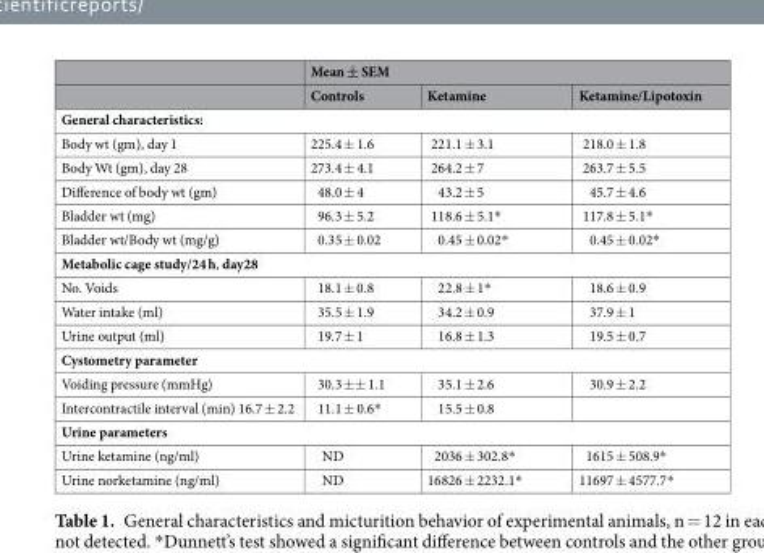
<table><thead><tr><td rowspan="2"></td><td colspan="3">Mean ± SEM</td></tr><tr><td>Controls</td><td>Ketamine</td><td>Ketamine/Lipotoxin</td></tr></thead><tbody><tr><td colspan="4">General characteristics:</td></tr><tr><td>Body wt (gm), day 1</td><td>225.4 ± 1.6</td><td>221.1 ± 3.1</td><td>218.0 ± 1.8</td></tr><tr><td>Body Wt (gm), day 28</td><td>273.4 ± 4.1</td><td>264.2 ± 7</td><td>263.7 ± 5.5</td></tr><tr><td>Difference of body wt (gm)</td><td>48.0 ± 4</td><td>43.2 ± 5</td><td>45.7 ± 4.6</td></tr><tr><td>Bladder wt (mg)</td><td>96.3 ± 5.2</td><td>118.6 ± 5.1*</td><td>117.8 ± 5.1*</td></tr><tr><td>Bladder wt/Body wt (mg/g)</td><td>0.35 ± 0.02</td><td>0.45 ± 0.02*</td><td>0.45 ± 0.02*</td></tr><tr><td colspan="4">Metabolic cage study/24 h, day28</td></tr><tr><td>No. Voids</td><td>18.1 ± 0.8</td><td>22.8 ± 1*</td><td>18.6 ± 0.9</td></tr><tr><td>Water intake (ml)</td><td>35.5 ± 1.9</td><td>34.2 ± 0.9</td><td>37.9 ± 1</td></tr><tr><td>Urine output (ml)</td><td>19.7 ± 1</td><td>16.8 ± 1.3</td><td>19.5 ± 0.7</td></tr><tr><td colspan="4">Cystometry parameter</td></tr><tr><td>Voiding pressure (mmHg)</td><td>30.3 ±± 1.1</td><td>35.1 ± 2.6</td><td>30.9 ± 2.2</td></tr><tr><td>Intercontractile interval (min) 16.7 ± 2.2</td><td>11.1 ± 0.6*</td><td>15.5 ± 0.8</td><td></td></tr><tr><td colspan="4">Urine parameters</td></tr><tr><td>Urine ketamine (ng/ml)</td><td>ND</td><td>2036 ± 302.8*</td><td>1615 ± 508.9*</td></tr><tr><td>Urine norketamine (ng/ml)</td><td>ND</td><td>16826 ± 2232.1*</td><td>11697 ± 4577.7*</td></tr></tbody></table>